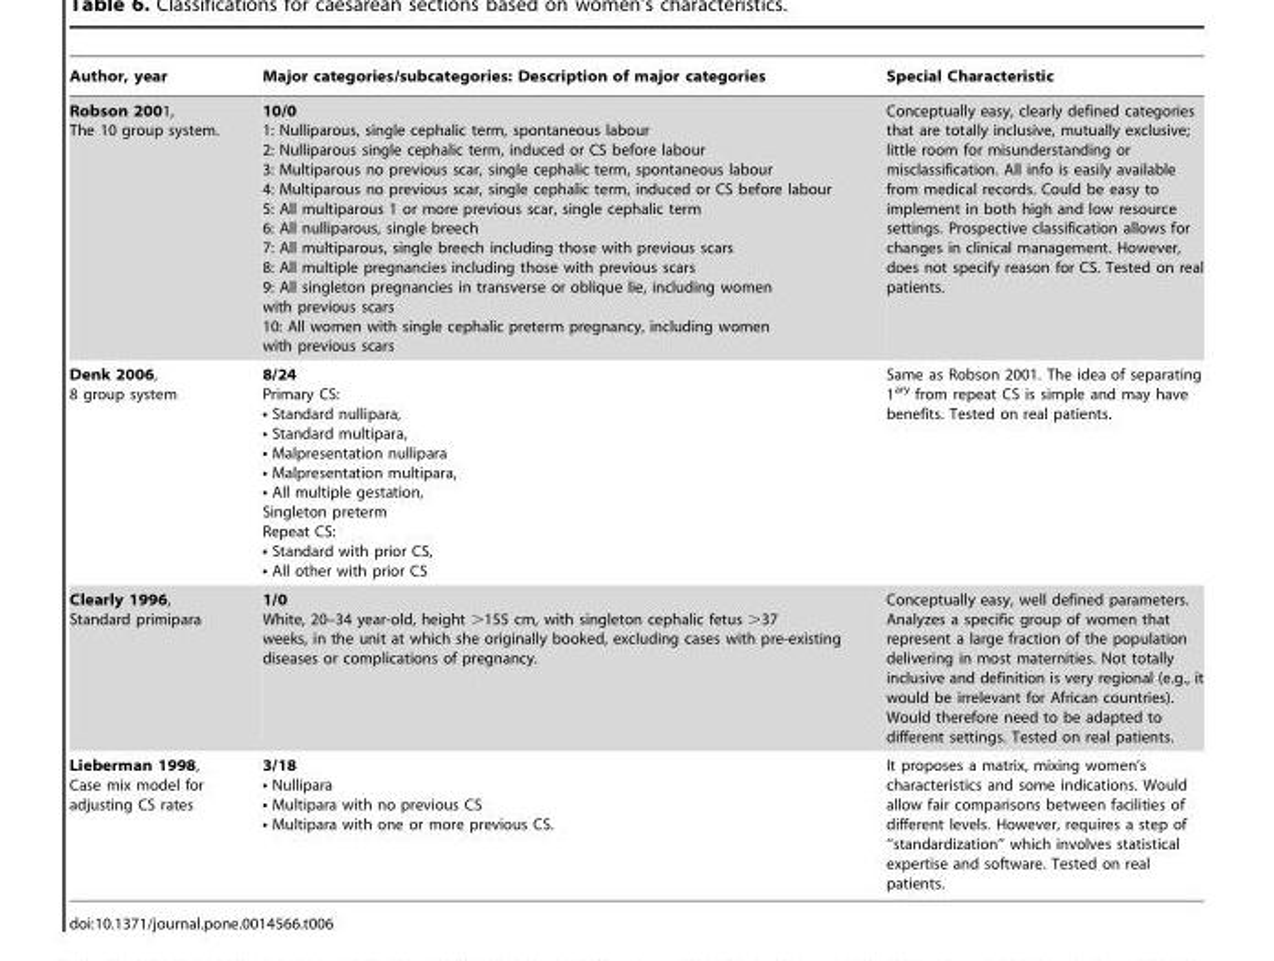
<table><thead><tr><td>Author, year</td><td>Major categories/subcategories: Description of major categories</td><td>Special Characteristic</td></tr></thead><tbody><tr><td>Robson 2001, The 10 group system.</td><td>10/0 1: Nulliparous, single cephalic term, spontaneous labour 2: Nulliparous single cephalic term, induced or CS before labour 3: Multiparous no previous scar, single cephalic term, spontaneous labour 4: Multiparous no previous scar, single cephalic term, induced or CS before labour 5: All multiparous 1 or more previous scar, single cephalic term 6: All nulliparous, single breech 7: All multiparous, single breech including those with previous scars 8: All multiple pregnancies including those with previous scars 9: All singleton pregnancies in transverse or oblique lie, including women with previous scars 10: All women with single cephalic preterm pregnancy, including women with previous scars</td><td>Conceptually easy, clearly defined categories that are totally inclusive, mutually exclusive; little room for misunderstanding or misclassification. All info is easily available from medical records. Could be easy to implement in both high and low resource settings. Prospective classification allows for changes in clinical management. However, does not specify reason for CS. Tested on real patients.</td></tr><tr><td>Denk 2006, 8 group system</td><td>8/24 Primary CS: • Standard nullipara, • Standard multipara, • Malpresentation nullipara • Malpresentation multipara, • All multiple gestation, Singleton preterm Repeat CS: • Standard with prior CS, • All other with prior CS</td><td>Same as Robson 2001. The idea of separating 1<sup>ary</sup> from repeat CS is simple and may have benefits. Tested on real patients.</td></tr><tr><td>Clearly 1996, Standard primipara</td><td>1/0 White, 20–34 year-old, height &gt;155 cm, with singleton cephalic fetus &gt;37 weeks, in the unit at which she originally booked, excluding cases with pre-existing diseases or complications of pregnancy.</td><td>Conceptually easy, well defined parameters. Analyzes a specific group of women that represent a large fraction of the population delivering in most maternities. Not totally inclusive and definition is very regional (e.g., it would be irrelevant for African countries). Would therefore need to be adapted to different settings. Tested on real patients.</td></tr><tr><td>Lieberman 1998, Case mix model for adjusting CS rates</td><td>3/18 • Nullipara • Multipara with no previous CS • Multipara with one or more previous CS.</td><td>It proposes a matrix, mixing women’s characteristics and some indications. Would allow fair comparisons between facilities of different levels. However, requires a step of ‘‘standardization’’ which involves statistical expertise and software. Tested on real patients.</td></tr></tbody></table>